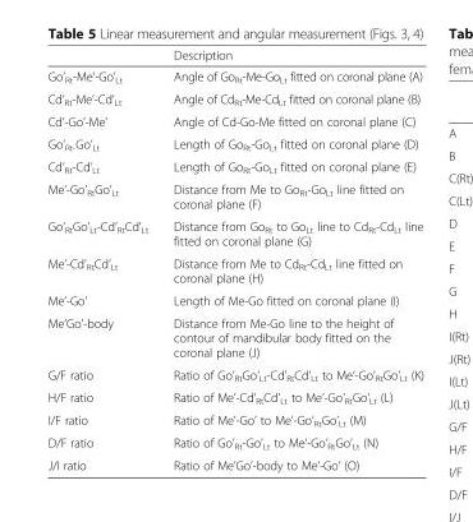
<table><thead><tr><td></td><td>Description</td></tr></thead><tbody><tr><td>Go’<sub>Rt</sub>-Me’-Go’<sub>Lt</sub></td><td>Angle of Go<sub>Rt</sub>-Me-Go<sub>Lt</sub> fitted on coronal plane (A)</td></tr><tr><td>Cd’<sub>Rt</sub>-Me’-Cd’<sub>Lt</sub></td><td>Angle of Cd<sub>Rt</sub>-Me-Cd<sub>Lt</sub> fitted on coronal plane (B)</td></tr><tr><td>Cd’-Go’-Me’</td><td>Angle of Cd-Go-Me fitted on coronal plane (C)</td></tr><tr><td>Go’<sub>Rt-</sub>Go’<sub>Lt</sub></td><td>Length of Go<sub>Rt</sub>-Go<sub>Lt</sub> fitted on coronal plane (D)</td></tr><tr><td>Cd’<sub>Rt</sub>-Cd’<sub>Lt</sub></td><td>Length of Go<sub>Rt</sub>-Go<sub>Lt</sub> fitted on coronal plane (E)</td></tr><tr><td>Me’-Go’<sub>Rt</sub>Go’<sub>Lt</sub></td><td>Distance from Me to Go<sub>Rt</sub>-Go<sub>Lt</sub> line fitted on coronal plane (F)</td></tr><tr><td>Go’<sub>Rt</sub>Go’<sub>Lt</sub>-Cd’<sub>Rt</sub>Cd’<sub>Lt</sub></td><td>Distance from Go<sub>Rt</sub> to Go<sub>Lt</sub> line to Cd<sub>Rt</sub>-Cd<sub>Lt</sub> line fitted on coronal plane (G)</td></tr><tr><td>Me’-Cd’<sub>Rt</sub>Cd’<sub>Lt</sub></td><td>Distance from Me to Cd<sub>Rt</sub>-Cd<sub>Lt</sub> line fitted on coronal plane (H)</td></tr><tr><td>Me’-Go’</td><td>Length of Me-Go fitted on coronal plane (I)</td></tr><tr><td>Me’Go’-body</td><td>Distance from Me-Go line to the height of contour of mandibular body fitted on the coronal plane (J)</td></tr><tr><td>G/F ratio</td><td>Ratio of Go’<sub>Rt</sub>Go’<sub>Lt</sub>-Cd’<sub>Rt</sub>Cd’<sub>Lt</sub> to Me’-Go’<sub>Rt</sub>Go’<sub>Lt</sub> (K)</td></tr><tr><td>H/F ratio</td><td>Ratio of Me’-Cd’<sub>Rt</sub>Cd’<sub>Lt</sub> to Me’-Go’<sub>Rt</sub>Go’<sub>Lt</sub> (L)</td></tr><tr><td>I/F ratio</td><td>Ratio of Me’-Go’ to Me’-Go’<sub>Rt</sub>Go’<sub>Lt</sub> (M)</td></tr><tr><td>D/F ratio</td><td>Ratio of Go’<sub>Rt</sub>-Go’<sub>Lt</sub> to Me’-Go’<sub>Rt</sub>Go’<sub>Lt</sub> (N)</td></tr><tr><td>J/I ratio</td><td>Ratio of Me’Go’-body to Me’-Go’ (O)</td></tr></tbody></table>